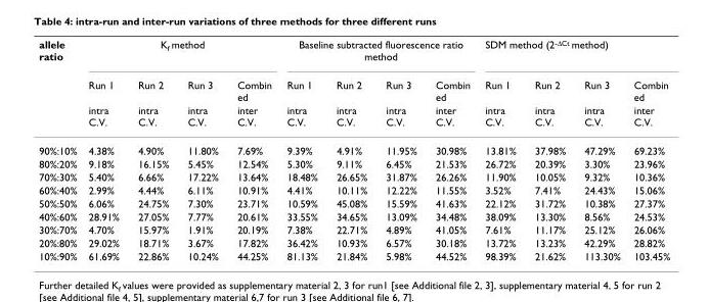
<table><thead><tr><td rowspan="3">allele ratio</td><td colspan="4">Kf method</td><td colspan="4">Baseline subtracted fluorescence ratio method</td><td colspan="4">SDM method (2-ΔCt method)</td></tr><tr><td rowspan="2">Run 1 intra C.V.</td><td rowspan="2">Run 2 intra C.V.</td><td rowspan="2">Run 3 intra C.V.</td><td rowspan="2">Combin ed inter C.V.</td><td rowspan="2">Run 1 intra C.V.</td><td rowspan="2">Run 2 intra C.V.</td><td rowspan="2">Run 3 intra C.V.</td><td rowspan="2">Combin ed inter C.V.</td><td rowspan="2">Run 1 intra C.V.</td><td rowspan="2">Run 2 intra C.V.</td><td rowspan="2">Run 3 intra C.V.</td><td rowspan="2">Combin ed inter C.V.</td></tr><tr></tr></thead><tbody><tr><td>90%:10%</td><td>4.38%</td><td>4.90%</td><td>11.80%</td><td>7.69%</td><td>9.39%</td><td>4.91%</td><td>11.95%</td><td>30.98%</td><td>13.81%</td><td>37.98%</td><td>47.29%</td><td>69.23%</td></tr><tr><td>80%:20%</td><td>9.18%</td><td>16.15%</td><td>5.45%</td><td>12.54%</td><td>5.30%</td><td>9.11%</td><td>6.45%</td><td>21.53%</td><td>26.72%</td><td>20.39%</td><td>3.30%</td><td>23.96%</td></tr><tr><td>70%:30%</td><td>5.40%</td><td>6.66%</td><td>17.22%</td><td>13.64%</td><td>18.48%</td><td>26.65%</td><td>31.87%</td><td>26.26%</td><td>11.90%</td><td>10.05%</td><td>9.32%</td><td>10.36%</td></tr><tr><td>60%:40%</td><td>2.99%</td><td>4.44%</td><td>6.11%</td><td>10.91%</td><td>4.41%</td><td>10.11%</td><td>12.22%</td><td>11.55%</td><td>3.52%</td><td>7.41%</td><td>24.43%</td><td>15.06%</td></tr><tr><td>50%:50%</td><td>6.06%</td><td>24.75%</td><td>7.30%</td><td>23.71%</td><td>10.59%</td><td>45.08%</td><td>15.59%</td><td>41.63%</td><td>22.12%</td><td>31.72%</td><td>10.38%</td><td>27.37%</td></tr><tr><td>40%:60%</td><td>28.91%</td><td>27.05%</td><td>7.77%</td><td>20.61%</td><td>33.55%</td><td>34.65%</td><td>13.09%</td><td>34.48%</td><td>38.09%</td><td>13.30%</td><td>8.56%</td><td>24.53%</td></tr><tr><td>30%:70%</td><td>4.70%</td><td>15.97%</td><td>1.91%</td><td>20.19%</td><td>7.38%</td><td>22.71%</td><td>4.89%</td><td>41.05%</td><td>7.61%</td><td>11.17%</td><td>25.12%</td><td>26.06%</td></tr><tr><td>20%:80%</td><td>29.02%</td><td>18.71%</td><td>3.67%</td><td>17.82%</td><td>36.42%</td><td>10.93%</td><td>6.57%</td><td>30.18%</td><td>13.72%</td><td>13.23%</td><td>42.29%</td><td>28.82%</td></tr><tr><td>10%:90%</td><td>61.69%</td><td>22.86%</td><td>10.24%</td><td>44.25%</td><td>81.13%</td><td>21.84%</td><td>5.98%</td><td>44.52%</td><td>98.39%</td><td>21.62%</td><td>113.30%</td><td>103.45%</td></tr></tbody></table>